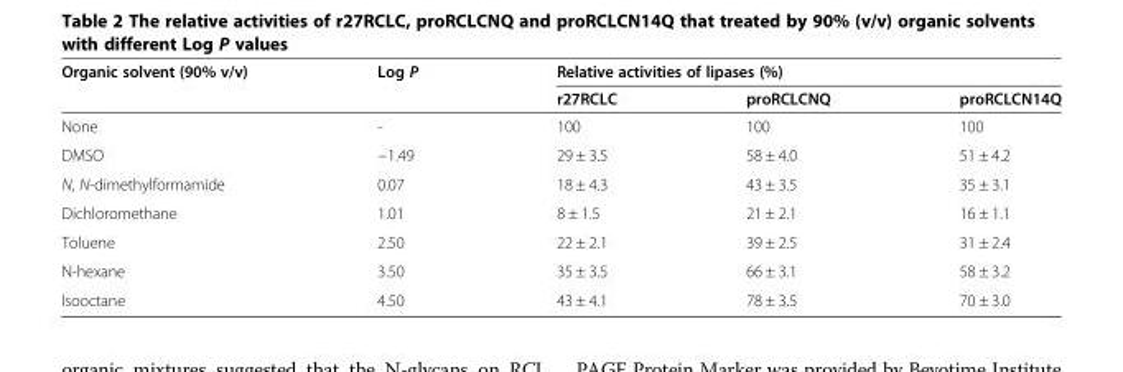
<table><thead><tr><td rowspan="2">Organic solvent (90% v/v)</td><td rowspan="2">Log P</td><td colspan="3">Relative activities of lipases (%)</td></tr><tr><td>r27RCLC</td><td>proRCLCNQ</td><td>proRCLCN14Q</td></tr></thead><tbody><tr><td>None</td><td>-</td><td>100</td><td>100</td><td>100</td></tr><tr><td>DMSO</td><td>−1.49</td><td>29 ± 3.5</td><td>58 ± 4.0</td><td>51 ± 4.2</td></tr><tr><td>N, N-dimethylformamide</td><td>0.07</td><td>18 ± 4.3</td><td>43 ± 3.5</td><td>35 ± 3.1</td></tr><tr><td>Dichloromethane</td><td>1.01</td><td>8 ± 1.5</td><td>21 ± 2.1</td><td>16 ± 1.1</td></tr><tr><td>Toluene</td><td>2.50</td><td>22 ± 2.1</td><td>39 ± 2.5</td><td>31 ± 2.4</td></tr><tr><td>N-hexane</td><td>3.50</td><td>35 ± 3.5</td><td>66 ± 3.1</td><td>58 ± 3.2</td></tr><tr><td>Isooctane</td><td>4.50</td><td>43 ± 4.1</td><td>78 ± 3.5</td><td>70 ± 3.0</td></tr></tbody></table>